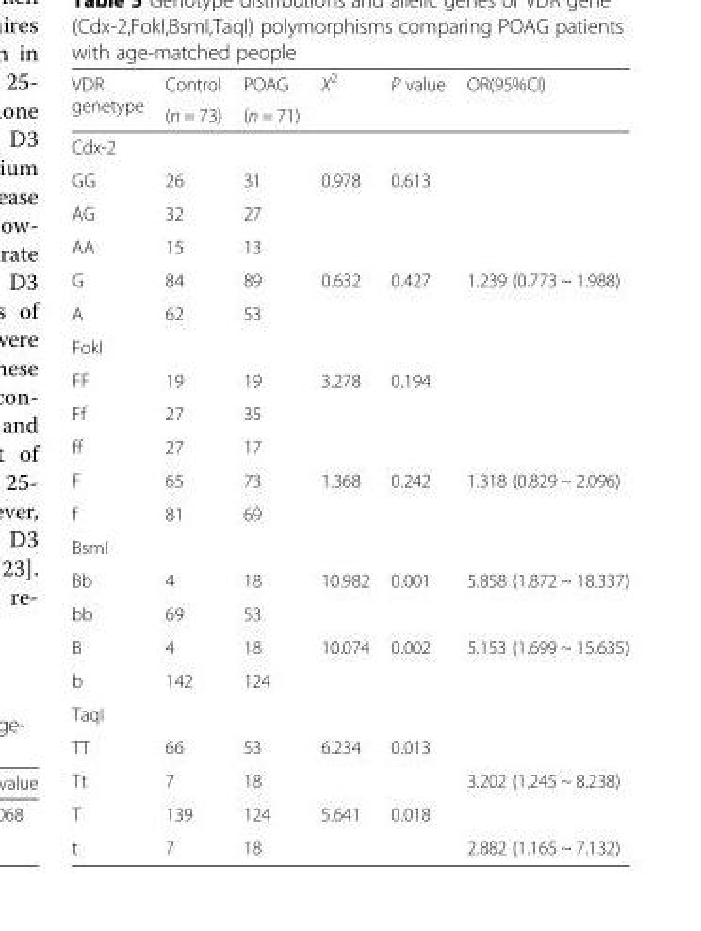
<table><thead><tr><td rowspan="2">VDR genetype</td><td rowspan="2">Control (n = 73)</td><td rowspan="2">POAG (n = 71)</td><td rowspan="2">X<sup>2</sup></td><td rowspan="2">P value</td><td rowspan="2">OR(95%CI)</td></tr><tr></tr></thead><tbody><tr><td colspan="6">Cdx-2</td></tr><tr><td>GG</td><td>26</td><td>31</td><td rowspan="3">0.978</td><td rowspan="3">0.613</td><td></td></tr><tr><td>AG</td><td>32</td><td>27</td><td></td></tr><tr><td>AA</td><td>15</td><td>13</td><td></td></tr><tr><td>G</td><td>84</td><td>89</td><td>0.632</td><td>0.427</td><td>1.239 (0.773 ~ 1.988)</td></tr><tr><td>A</td><td>62</td><td>53</td><td></td><td></td><td></td></tr><tr><td colspan="6">FokI</td></tr><tr><td>FF</td><td>19</td><td>19</td><td rowspan="3">3.278</td><td rowspan="3">0.194</td><td></td></tr><tr><td>Ff</td><td>27</td><td>35</td><td></td></tr><tr><td>ff</td><td>27</td><td>17</td><td></td></tr><tr><td>F</td><td>65</td><td>73</td><td rowspan="2">1.368</td><td rowspan="2">0.242</td><td>1.318 (0.829 ~ 2.096)</td></tr><tr><td>f</td><td>81</td><td>69</td><td></td></tr><tr><td colspan="6">BsmI</td></tr><tr><td>Bb</td><td>4</td><td>18</td><td rowspan="2">10.982</td><td rowspan="2">0.001</td><td>5.858 (1.872 ~ 18.337)</td></tr><tr><td>bb</td><td>69</td><td>53</td><td></td></tr><tr><td>B</td><td>4</td><td>18</td><td rowspan="2">10.074</td><td rowspan="2">0.002</td><td>5.153 (1.699 ~ 15.635)</td></tr><tr><td>b</td><td>142</td><td>124</td><td></td></tr><tr><td colspan="6">TaqI</td></tr><tr><td>TT</td><td>66</td><td>53</td><td rowspan="2">6.234</td><td rowspan="2">0.013</td><td></td></tr><tr><td>Tt</td><td>7</td><td>18</td><td>3.202 (1.245 ~ 8.238)</td></tr><tr><td>T</td><td>139</td><td>124</td><td rowspan="2">5.641</td><td rowspan="2">0.018</td><td></td></tr><tr><td>t</td><td>7</td><td>18</td><td>2.882 (1.165 ~ 7.132)</td></tr></tbody></table>